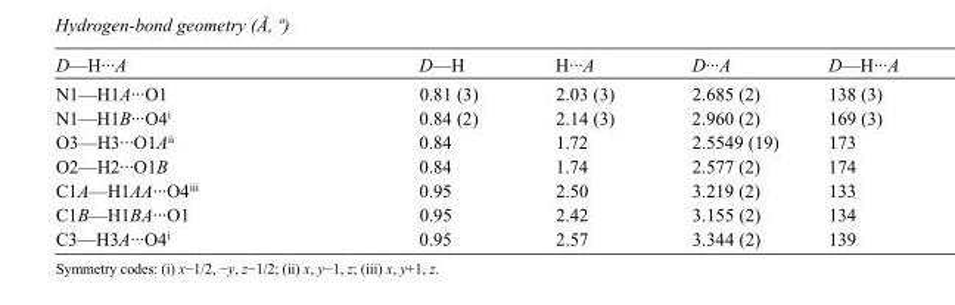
<table><tbody><tr><td>D—H···A</td><td>D—H</td><td>H···A</td><td>D···A</td><td>D—H···A</td></tr><tr><td>N1—H1A···O1</td><td>0.81 (3)</td><td>2.03 (3)</td><td>2.685 (2)</td><td>138 (3)</td></tr><tr><td>N1—H1B···O4<sup>i</sup></td><td>0.84 (2)</td><td>2.14 (3)</td><td>2.960 (2)</td><td>169 (3)</td></tr><tr><td>O3—H3···O1A<sup>ii</sup></td><td>0.84</td><td>1.72</td><td>2.5549 (19)</td><td>173</td></tr><tr><td>O2—H2···O1B</td><td>0.84</td><td>1.74</td><td>2.577 (2)</td><td>174</td></tr><tr><td>C1A—H1AA···O4<sup>iii</sup></td><td>0.95</td><td>2.50</td><td>3.219 (2)</td><td>133</td></tr><tr><td>C1B—H1BA···O1</td><td>0.95</td><td>2.42</td><td>3.155 (2)</td><td>134</td></tr><tr><td>C3—H3A···O4<sup>i</sup></td><td>0.95</td><td>2.57</td><td>3.344 (2)</td><td>139</td></tr></tbody></table>